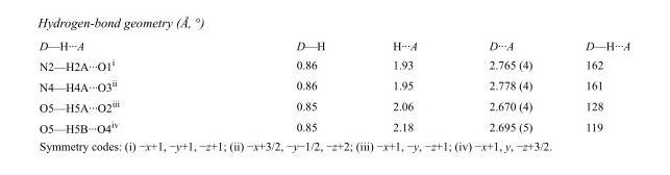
<table><tbody><tr><td>D—H···A</td><td>D—H</td><td>H···A</td><td>D···A</td><td>D—H···A</td></tr><tr><td>N2—H2A···O1<sup>i</sup></td><td>0.86</td><td>1.93</td><td>2.765 (4)</td><td>162</td></tr><tr><td>N4—H4A···O3<sup>ii</sup></td><td>0.86</td><td>1.95</td><td>2.778 (4)</td><td>161</td></tr><tr><td>O5—H5A···O2<sup>iii</sup></td><td>0.85</td><td>2.06</td><td>2.670 (4)</td><td>128</td></tr><tr><td>O5—H5B···O4<sup>iv</sup></td><td>0.85</td><td>2.18</td><td>2.695 (5)</td><td>119</td></tr></tbody></table>